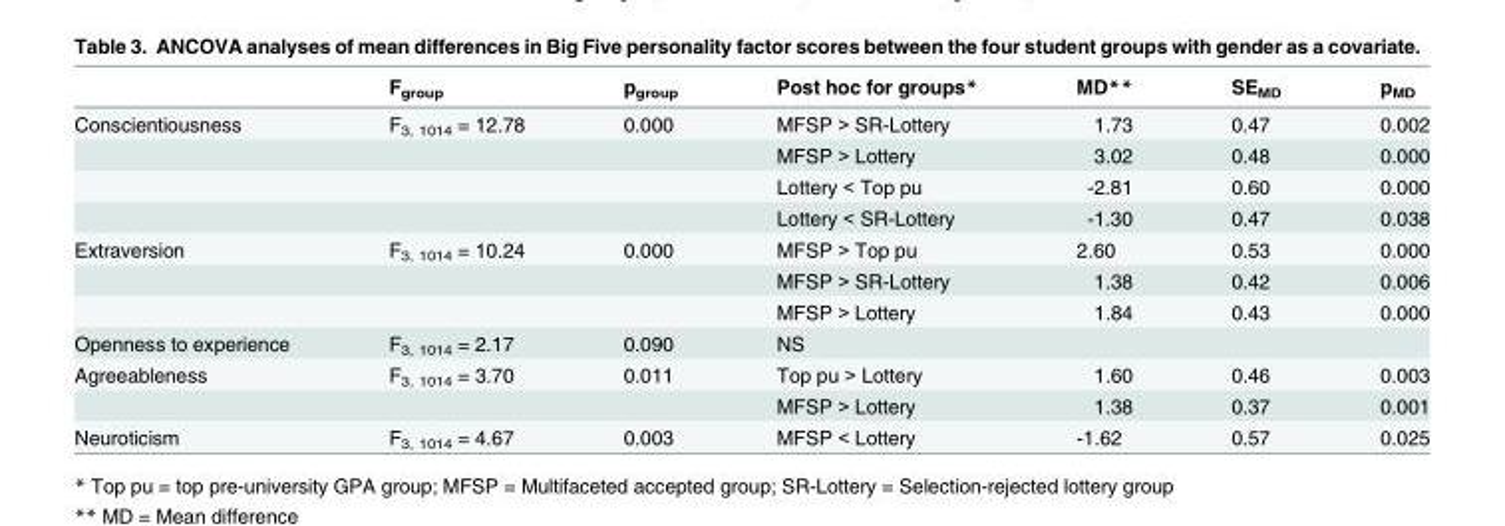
<table><thead><tr><td></td><td>F<sub>group</sub></td><td>p<sub>group</sub></td><td>Post hoc for groups*</td><td>MD**</td><td>SE<sub>MD</sub></td><td>p<sub>MD</sub></td></tr></thead><tbody><tr><td rowspan="4">Conscientiousness</td><td>F<sub>3, 1014</sub> = 12.78</td><td>0.000</td><td>MFSP &gt; SR-Lottery</td><td>1.73</td><td>0.47</td><td>0.002</td></tr><tr><td></td><td></td><td>MFSP &gt; Lottery</td><td>3.02</td><td>0.48</td><td>0.000</td></tr><tr><td></td><td></td><td>Lottery &lt; Top pu</td><td>-2.81</td><td>0.60</td><td>0.000</td></tr><tr><td></td><td></td><td>Lottery &lt; SR-Lottery</td><td>-1.30</td><td>0.47</td><td>0.038</td></tr><tr><td rowspan="3">Extraversion</td><td>F<sub>3, 1014</sub> = 10.24</td><td>0.000</td><td>MFSP &gt; Top pu</td><td>2.60</td><td>0.53</td><td>0.000</td></tr><tr><td></td><td></td><td>MFSP &gt; SR-Lottery</td><td>1.38</td><td>0.42</td><td>0.006</td></tr><tr><td></td><td></td><td>MFSP &gt; Lottery</td><td>1.84</td><td>0.43</td><td>0.000</td></tr><tr><td>Openness to experience</td><td>F<sub>3, 1014</sub> = 2.17</td><td>0.090</td><td>NS</td><td></td><td></td><td></td></tr><tr><td rowspan="2">Agreeableness</td><td>F<sub>3, 1014</sub> = 3.70</td><td>0.011</td><td>Top pu &gt; Lottery</td><td>1.60</td><td>0.46</td><td>0.003</td></tr><tr><td></td><td></td><td>MFSP &gt; Lottery</td><td>1.38</td><td>0.37</td><td>0.001</td></tr><tr><td>Neuroticism</td><td>F<sub>3, 1014</sub> = 4.67</td><td>0.003</td><td>MFSP &lt; Lottery</td><td>-1.62</td><td>0.57</td><td>0.025</td></tr></tbody></table>